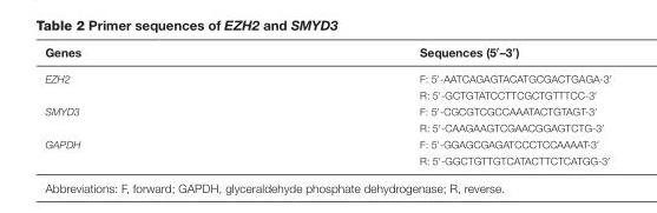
<table><thead><tr><td>Genes</td><td>Sequences (5′–3′)</td></tr></thead><tbody><tr><td rowspan="2">EZH2</td><td>F: 5′-AATCAGAGTACATGCGACTGAGA-3′</td></tr><tr><td>R: 5′-GCTGTATCCTTCGCTGTTTCC-3′</td></tr><tr><td rowspan="2">SMYD3</td><td>F: 5′-CGCGTCGCCAAATACTGTAGT-3′</td></tr><tr><td>R: 5′-CAAGAAGTCGAACGGAGTCTG-3′</td></tr><tr><td rowspan="2">GAPDH</td><td>F: 5′-GGAGCGAGATCCCTCCAAAAT-3′</td></tr><tr><td>R: 5′-GGCTGTTGTCATACTTCTCATGG-3′</td></tr></tbody></table>